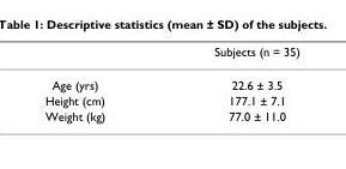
<table><thead><tr><td></td><td>Subjects (n = 35)</td></tr></thead><tbody><tr><td>Age (yrs)</td><td>22.6 ± 3.5</td></tr><tr><td>Height (cm)</td><td>177.1 ± 7.1</td></tr><tr><td>Weight (kg)</td><td>77.0 ± 11.0</td></tr></tbody></table>